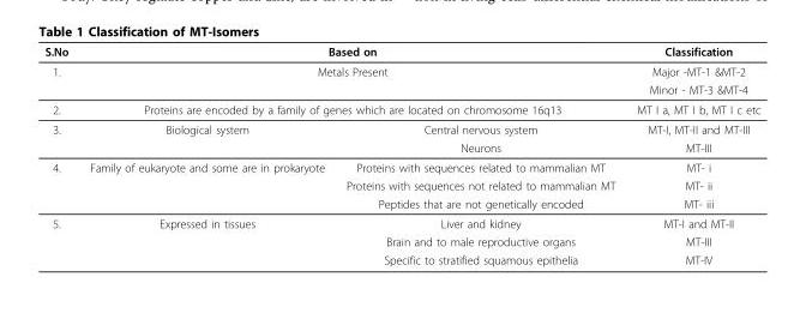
<table><thead><tr><td>S.No</td><td colspan="2">Based on</td><td>Classification</td></tr></thead><tbody><tr><td rowspan="2">1.</td><td colspan="2">Metals Present</td><td>Major -MT-1 &amp;MT-2</td></tr><tr><td colspan="2"></td><td>Minor - MT-3 &amp;MT-4</td></tr><tr><td>2.</td><td colspan="2">Proteins are encoded by a family of genes which are located on chromosome 16q13</td><td>MT I a, MT I b, MT I c etc</td></tr><tr><td rowspan="2">3.</td><td>Biological system</td><td>Central nervous system</td><td>MT-I, MT-II and MT-III</td></tr><tr><td></td><td>Neurons</td><td>MT-III</td></tr><tr><td rowspan="3">4.</td><td>Family of eukaryote and some are in prokaryote</td><td>Proteins with sequences related to mammalian MT</td><td>MT- i</td></tr><tr><td></td><td>Proteins with sequences not related to mammalian MT</td><td>MT- ii</td></tr><tr><td></td><td>Peptides that are not genetically encoded</td><td>MT- iii</td></tr><tr><td rowspan="3">5.</td><td>Expressed in tissues</td><td>Liver and kidney</td><td>MT-I and MT-II</td></tr><tr><td></td><td>Brain and to male reproductive organs</td><td>MT-III</td></tr><tr><td></td><td>Specific to stratified squamous epithelia</td><td>MT-IV</td></tr></tbody></table>